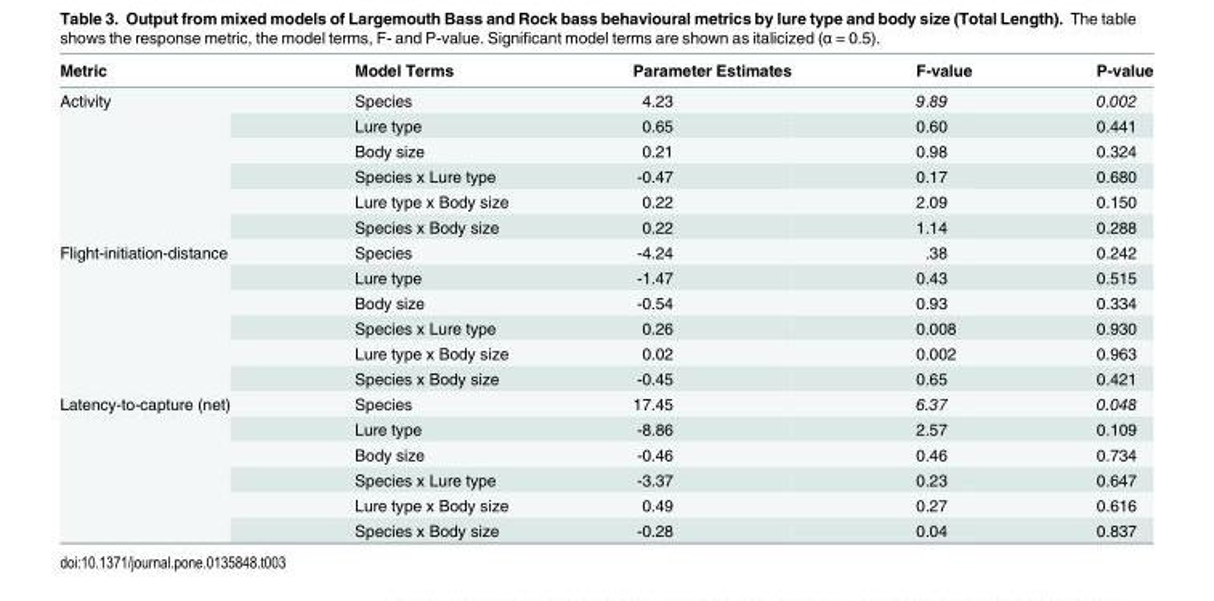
<table><thead><tr><td>Metric</td><td>Model Terms</td><td>Parameter Estimates</td><td>F-value</td><td>P-value</td></tr></thead><tbody><tr><td rowspan="6">Activity</td><td>Species</td><td>4.23</td><td>9.89</td><td>0.002</td></tr><tr><td>Lure type</td><td>0.65</td><td>0.60</td><td>0.441</td></tr><tr><td>Body size</td><td>0.21</td><td>0.98</td><td>0.324</td></tr><tr><td>Species x Lure type</td><td>-0.47</td><td>0.17</td><td>0.680</td></tr><tr><td>Lure type x Body size</td><td>0.22</td><td>2.09</td><td>0.150</td></tr><tr><td>Species x Body size</td><td>0.22</td><td>1.14</td><td>0.288</td></tr><tr><td rowspan="6">Flight-initiation-distance</td><td>Species</td><td>-4.24</td><td>.38</td><td>0.242</td></tr><tr><td>Lure type</td><td>-1.47</td><td>0.43</td><td>0.515</td></tr><tr><td>Body size</td><td>-0.54</td><td>0.93</td><td>0.334</td></tr><tr><td>Species x Lure type</td><td>0.26</td><td>0.008</td><td>0.930</td></tr><tr><td>Lure type x Body size</td><td>0.02</td><td>0.002</td><td>0.963</td></tr><tr><td>Species x Body size</td><td>-0.45</td><td>0.65</td><td>0.421</td></tr><tr><td rowspan="6">Latency-to-capture (net)</td><td>Species</td><td>17.45</td><td>6.37</td><td>0.048</td></tr><tr><td>Lure type</td><td>-8.86</td><td>2.57</td><td>0.109</td></tr><tr><td>Body size</td><td>-0.46</td><td>0.46</td><td>0.734</td></tr><tr><td>Species x Lure type</td><td>-3.37</td><td>0.23</td><td>0.647</td></tr><tr><td>Lure type x Body size</td><td>0.49</td><td>0.27</td><td>0.616</td></tr><tr><td>Species x Body size</td><td>-0.28</td><td>0.04</td><td>0.837</td></tr></tbody></table>